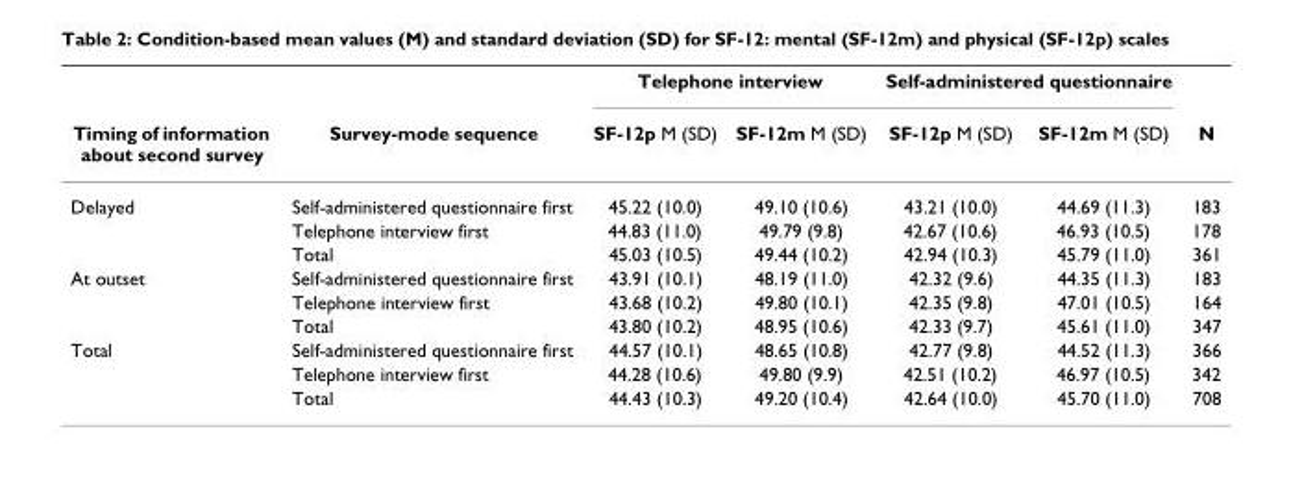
<table><thead><tr><td rowspan="2">Timing of information about second survey</td><td rowspan="2">Survey-mode sequence</td><td colspan="2">Telephone interview</td><td colspan="2">Self-administered questionnaire</td><td rowspan="2">N</td></tr><tr><td>SF-12p M (SD)</td><td>SF-12m M (SD)</td><td>SF-12p M (SD)</td><td>SF-12m M (SD)</td></tr></thead><tbody><tr><td rowspan="3">Delayed</td><td>Self-administered questionnaire first</td><td>45.22 (10.0)</td><td>49.10 (10.6)</td><td>43.21 (10.0)</td><td>44.69 (11.3)</td><td>183</td></tr><tr><td>Telephone interview first</td><td>44.83 (11.0)</td><td>49.79 (9.8)</td><td>42.67 (10.6)</td><td>46.93 (10.5)</td><td>178</td></tr><tr><td>Total</td><td>45.03 (10.5)</td><td>49.44 (10.2)</td><td>42.94 (10.3)</td><td>45.79 (11.0)</td><td>361</td></tr><tr><td rowspan="3">At outset</td><td>Self-administered questionnaire first</td><td>43.91 (10.1)</td><td>48.19 (11.0)</td><td>42.32 (9.6)</td><td>44.35 (11.3)</td><td>183</td></tr><tr><td>Telephone interview first</td><td>43.68 (10.2)</td><td>49.80 (10.1)</td><td>42.35 (9.8)</td><td>47.01 (10.5)</td><td>164</td></tr><tr><td>Total</td><td>43.80 (10.2)</td><td>48.95 (10.6)</td><td>42.33 (9.7)</td><td>45.61 (11.0)</td><td>347</td></tr><tr><td rowspan="3">Total</td><td>Self-administered questionnaire first</td><td>44.57 (10.1)</td><td>48.65 (10.8)</td><td>42.77 (9.8)</td><td>44.52 (11.3)</td><td>366</td></tr><tr><td>Telephone interview first</td><td>44.28 (10.6)</td><td>49.80 (9.9)</td><td>42.51 (10.2)</td><td>46.97 (10.5)</td><td>342</td></tr><tr><td>Total</td><td>44.43 (10.3)</td><td>49.20 (10.4)</td><td>42.64 (10.0)</td><td>45.70 (11.0)</td><td>708</td></tr></tbody></table>